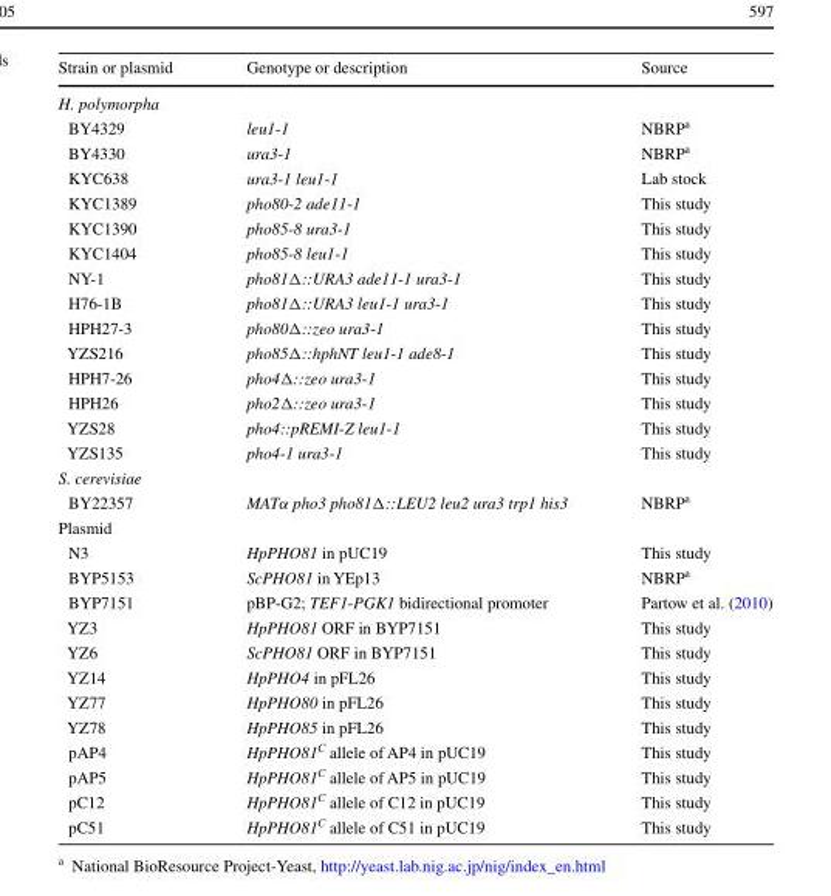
<table><thead><tr><td>Strain or plasmid</td><td>Genotype or description</td><td>Source</td></tr></thead><tbody><tr><td colspan="3">H. polymorpha</td></tr><tr><td>BY4329</td><td>leu1-1</td><td>NBRP<sup>a</sup></td></tr><tr><td>BY4330</td><td>ura3-1</td><td>NBRP<sup>a</sup></td></tr><tr><td>KYC638</td><td>ura3-1 leu1-1</td><td>Lab stock</td></tr><tr><td>KYC1389</td><td>pho80-2 ade11-1</td><td>This study</td></tr><tr><td>KYC1390</td><td>pho85-8 ura3-1</td><td>This study</td></tr><tr><td>KYC1404</td><td>pho85-8 leu1-1</td><td>This study</td></tr><tr><td>NY-1</td><td>pho81Δ::URA3 ade11-1 ura3-1</td><td>This study</td></tr><tr><td>H76-1B</td><td>pho81Δ::URA3 leu1-1 ura3-1</td><td>This study</td></tr><tr><td>HPH27-3</td><td>pho80Δ::zeo ura3-1</td><td>This study</td></tr><tr><td>YZS216</td><td>pho85Δ::hphNT leu1-1 ade8-1</td><td>This study</td></tr><tr><td>HPH7-26</td><td>pho4Δ::zeo ura3-1</td><td>This study</td></tr><tr><td>HPH26</td><td>pho2Δ::zeo ura3-1</td><td>This study</td></tr><tr><td>YZS28</td><td>pho4::pREMI-Z leu1-1</td><td>This study</td></tr><tr><td>YZS135</td><td>pho4-1 ura3-1</td><td>This study</td></tr><tr><td colspan="3">S. cerevisiae</td></tr><tr><td>BY22357</td><td>MATα pho3 pho81Δ::LEU2 leu2 ura3 trp1 his3</td><td>NBRP<sup>a</sup></td></tr><tr><td colspan="3">Plasmid</td></tr><tr><td>N3</td><td>HpPHO81 in pUC19</td><td>This study</td></tr><tr><td>BYP5153</td><td>ScPHO81 in YEp13</td><td>NBRP<sup>a</sup></td></tr><tr><td>BYP7151</td><td>pBP-G2; TEF1-PGK1 bidirectional promoter</td><td>Partow et al. (2010)</td></tr><tr><td>YZ3</td><td>HpPHO81 ORF in BYP7151</td><td>This study</td></tr><tr><td>YZ6</td><td>ScPHO81 ORF in BYP7151</td><td>This study</td></tr><tr><td>YZ14</td><td>HpPHO4 in pFL26</td><td>This study</td></tr><tr><td>YZ77</td><td>HpPHO80 in pFL26</td><td>This study</td></tr><tr><td>YZ78</td><td>HpPHO85 in pFL26</td><td>This study</td></tr><tr><td>pAP4</td><td>HpPHO81<sup>C</sup> allele of AP4 in pUC19</td><td>This study</td></tr><tr><td>pAP5</td><td>HpPHO81<sup>C</sup> allele of AP5 in pUC19</td><td>This study</td></tr><tr><td>pC12</td><td>HpPHO81<sup>C</sup> allele of C12 in pUC19</td><td>This study</td></tr><tr><td>pC51</td><td>HpPHO81<sup>C</sup> allele of C51 in pUC19</td><td>This study</td></tr></tbody></table>